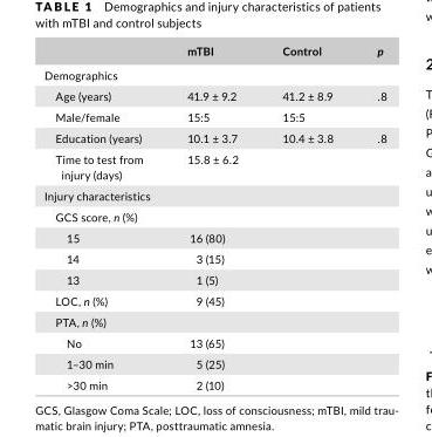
<table><thead><tr><td></td><td>mTBI</td><td>Control</td><td>p</td></tr></thead><tbody><tr><td colspan="4">Demographics</td></tr><tr><td>Age (years)</td><td>41.9 ± 9.2</td><td>41.2 ± 8.9</td><td>.8</td></tr><tr><td>Male/female</td><td>15:5</td><td>15:5</td><td></td></tr><tr><td>Education (years)</td><td>10.1 ± 3.7</td><td>10.4 ± 3.8</td><td>.8</td></tr><tr><td>Time to test from injury (days)</td><td>15.8 ± 6.2</td><td></td><td></td></tr><tr><td colspan="4">Injury characteristics</td></tr><tr><td colspan="4">GCS score, n (%)</td></tr><tr><td>15</td><td>16 (80)</td><td></td><td></td></tr><tr><td>14</td><td>3 (15)</td><td></td><td></td></tr><tr><td>13</td><td>1 (5)</td><td></td><td></td></tr><tr><td>LOC, n (%)</td><td>9 (45)</td><td></td><td></td></tr><tr><td colspan="4">PTA, n (%)</td></tr><tr><td>No</td><td>13 (65)</td><td></td><td></td></tr><tr><td>1–30 min</td><td>5 (25)</td><td></td><td></td></tr><tr><td>&gt;30 min</td><td>2 (10)</td><td></td><td></td></tr></tbody></table>